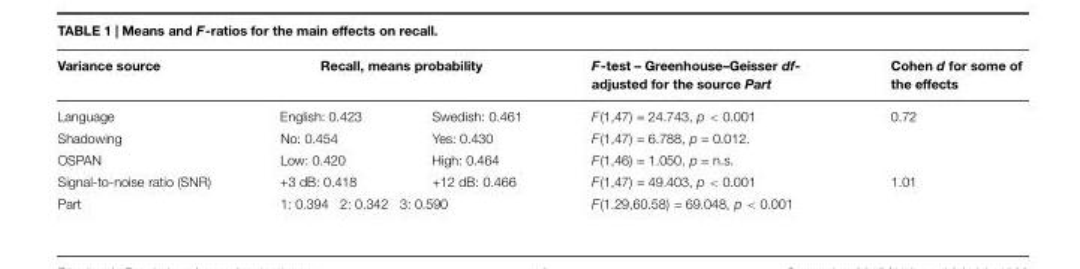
<table><thead><tr><td rowspan="2">Variance source Language</td><td colspan="2">Recall, means probability</td><td rowspan="2">F-test – Greenhouse–Geisser df- adjusted for the source Part F(1,47) = 24.743, p &lt; 0.001</td><td rowspan="2">Cohen d for some of the effects 0.72</td></tr><tr><td>English: 0.423</td><td>Swedish: 0.461</td></tr></thead><tbody><tr><td>Shadowing</td><td>No: 0.454</td><td>Yes: 0.430</td><td>F(1,47) = 6.788, p = 0.012.</td><td></td></tr><tr><td>OSPAN</td><td>Low: 0.420</td><td>High: 0.464</td><td>F(1,46) = 1.050, p = n.s.</td><td></td></tr><tr><td>Signal-to-noise ratio (SNR)</td><td>+3 dB: 0.418</td><td>+12 dB: 0.466</td><td>F(1,47) = 49.403, p &lt; 0.001</td><td>1.01</td></tr><tr><td>Part</td><td colspan="2">1: 0.394 2: 0.342 3: 0.590</td><td>F(1.29,60.58) = 69.048, p &lt; 0.001</td><td></td></tr></tbody></table>